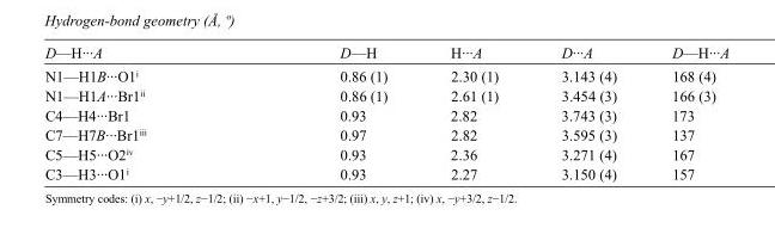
<table><tbody><tr><td>D—H···A</td><td>D—H</td><td>H···A</td><td>D···A</td><td>D—H···A</td></tr><tr><td>N1—H1B···O1<sup>i</sup></td><td>0.86 (1)</td><td>2.30 (1)</td><td>3.143 (4)</td><td>168 (4)</td></tr><tr><td>N1—H1A···Br1<sup>ii</sup></td><td>0.86 (1)</td><td>2.61 (1)</td><td>3.454 (3)</td><td>166 (3)</td></tr><tr><td>C4—H4···Br1</td><td>0.93</td><td>2.82</td><td>3.743 (3)</td><td>173</td></tr><tr><td>C7—H7B···Br1<sup>iii</sup></td><td>0.97</td><td>2.82</td><td>3.595 (3)</td><td>137</td></tr><tr><td>C5—H5···O2<sup>iv</sup></td><td>0.93</td><td>2.36</td><td>3.271 (4)</td><td>167</td></tr><tr><td>C3—H3···O1<sup>i</sup></td><td>0.93</td><td>2.27</td><td>3.150 (4)</td><td>157</td></tr></tbody></table>